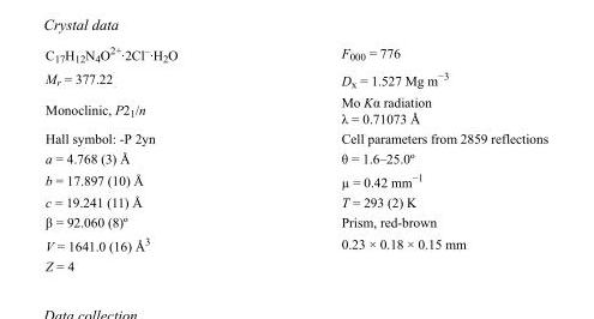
<table><tbody><tr><td>C<sub>17</sub>H<sub>12</sub>N<sub>4</sub>O<sup>2+</sup>·2Cl<sup>–</sup>·H<sub>2</sub>O</td><td>F000 = 776</td></tr><tr><td>M<sub>r</sub> = 377.22</td><td>D<sub>x</sub> = 1.527 Mg m<sup>−3</sup></td></tr><tr><td>Monoclinic, P2<sub>1</sub>/n</td><td>Mo Kα radiation λ = 0.71073 Å</td></tr><tr><td>Hall symbol: -P 2yn</td><td>Cell parameters from 2859 reflections</td></tr><tr><td>a = 4.768 (3) Å</td><td>θ = 1.6–25.0º</td></tr><tr><td>b = 17.897 (10) Å</td><td>µ = 0.42 mm<sup>−1</sup></td></tr><tr><td>c = 19.241 (11) Å</td><td>T = 293 (2) K</td></tr><tr><td>β = 92.060 (8)º</td><td>Prism, red-brown</td></tr><tr><td>V = 1641.0 (16) Å<sup>3</sup></td><td>0.23 × 0.18 × 0.15 mm</td></tr><tr><td>Z = 4</td><td></td></tr></tbody></table>